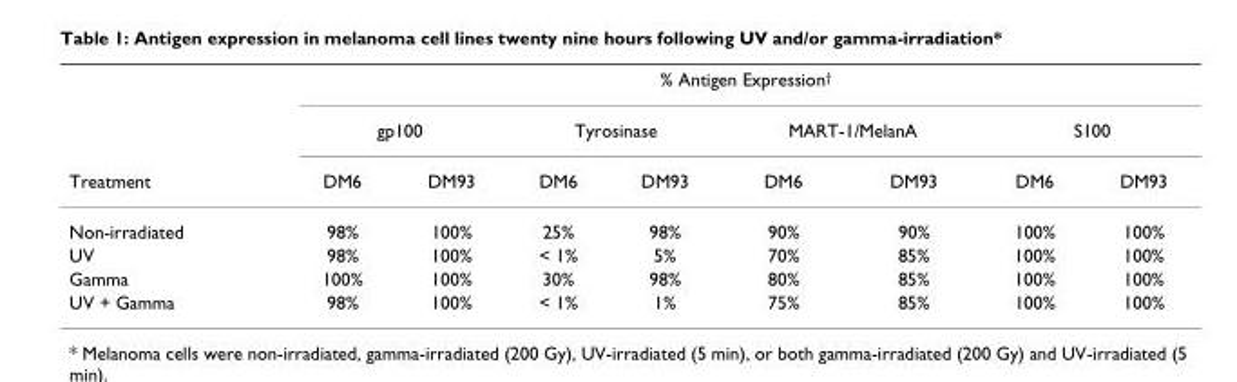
<table><thead><tr><td rowspan="3">Treatment</td><td colspan="8">% Antigen Expression<sup>†</sup></td></tr><tr><td colspan="2">gp100</td><td colspan="2">Tyrosinase</td><td colspan="2">MART-1/MelanA</td><td colspan="2">S100</td></tr><tr><td>DM6</td><td>DM93</td><td>DM6</td><td>DM93</td><td>DM6</td><td>DM93</td><td>DM6</td><td>DM93</td></tr></thead><tbody><tr><td>Non-irradiated</td><td>98%</td><td>100%</td><td>25%</td><td>98%</td><td>90%</td><td>90%</td><td>100%</td><td>100%</td></tr><tr><td>UV</td><td>98%</td><td>100%</td><td>&lt; 1%</td><td>5%</td><td>70%</td><td>85%</td><td>100%</td><td>100%</td></tr><tr><td>Gamma</td><td>100%</td><td>100%</td><td>30%</td><td>98%</td><td>80%</td><td>85%</td><td>100%</td><td>100%</td></tr><tr><td>UV + Gamma</td><td>98%</td><td>100%</td><td>&lt; 1%</td><td>1%</td><td>75%</td><td>85%</td><td>100%</td><td>100%</td></tr></tbody></table>